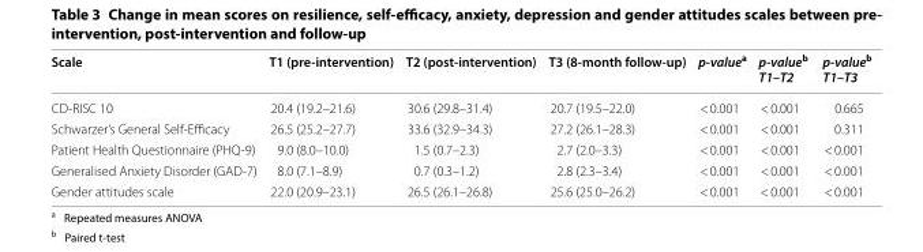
<table><thead><tr><td>Scale</td><td>T1 (pre‑intervention)</td><td>T2 (post‑intervention)</td><td>T3 (8‑month follow‑up)</td><td>p‑value<sup>a</sup></td><td>p‑value<sup>b</sup> T1–T2</td><td>p‑value<sup>b</sup> T1–T3</td></tr></thead><tbody><tr><td>CD-RISC 10</td><td>20.4 (19.2–21.6)</td><td>30.6 (29.8–31.4)</td><td>20.7 (19.5–22.0)</td><td>&lt; 0.001</td><td>&lt; 0.001</td><td>0.665</td></tr><tr><td>Schwarzer’s General Self-Efficacy</td><td>26.5 (25.2–27.7)</td><td>33.6 (32.9–34.3)</td><td>27.2 (26.1–28.3)</td><td>&lt; 0.001</td><td>&lt; 0.001</td><td>0.311</td></tr><tr><td>Patient Health Questionnaire (PHQ-9)</td><td>9.0 (8.0–10.0)</td><td>1.5 (0.7–2.3)</td><td>2.7 (2.0–3.3)</td><td>&lt; 0.001</td><td>&lt; 0.001</td><td>&lt; 0.001</td></tr><tr><td>Generalised Anxiety Disorder (GAD-7)</td><td>8.0 (7.1–8.9)</td><td>0.7 (0.3–1.2)</td><td>2.8 (2.3–3.4)</td><td>&lt; 0.001</td><td>&lt; 0.001</td><td>&lt; 0.001</td></tr><tr><td>Gender attitudes scale</td><td>22.0 (20.9–23.1)</td><td>26.5 (26.1–26.8)</td><td>25.6 (25.0–26.2)</td><td>&lt; 0.001</td><td>&lt; 0.001</td><td>&lt; 0.001</td></tr></tbody></table>